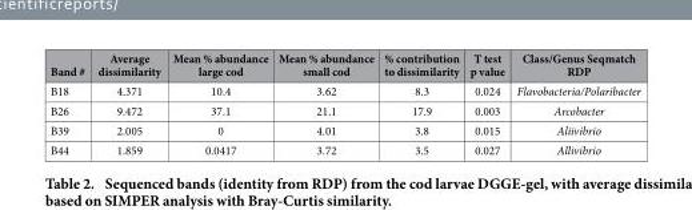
<table><thead><tr><td>Band #</td><td>Average dissimilarity</td><td>Mean % abundance large cod</td><td>Mean % abundance small cod</td><td>% contribution to dissimilarity</td><td>T test p value</td><td>Class/Genus Seqmatch RDP</td></tr></thead><tbody><tr><td>B18</td><td>4.371</td><td>10.4</td><td>3.62</td><td>8.3</td><td>0.024</td><td>Flavobacteria/Polaribacter</td></tr><tr><td>B26</td><td>9.472</td><td>37.1</td><td>21.1</td><td>17.9</td><td>0.003</td><td>Arcobacter</td></tr><tr><td>B39</td><td>2.005</td><td>0</td><td>4.01</td><td>3.8</td><td>0.015</td><td>Aliivibrio</td></tr><tr><td>B44</td><td>1.859</td><td>0.0417</td><td>3.72</td><td>3.5</td><td>0.027</td><td>Allivibrio</td></tr></tbody></table>